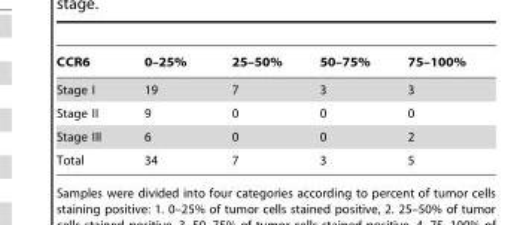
<table><thead><tr><td>CCR6</td><td>0–25%</td><td>25–50%</td><td>50–75%</td><td>75–100%</td></tr></thead><tbody><tr><td>Stage I</td><td>19</td><td>7</td><td>3</td><td>3</td></tr><tr><td>Stage II</td><td>9</td><td>0</td><td>0</td><td>0</td></tr><tr><td>Stage III</td><td>6</td><td>0</td><td>0</td><td>2</td></tr><tr><td>Total</td><td>34</td><td>7</td><td>3</td><td>5</td></tr></tbody></table>